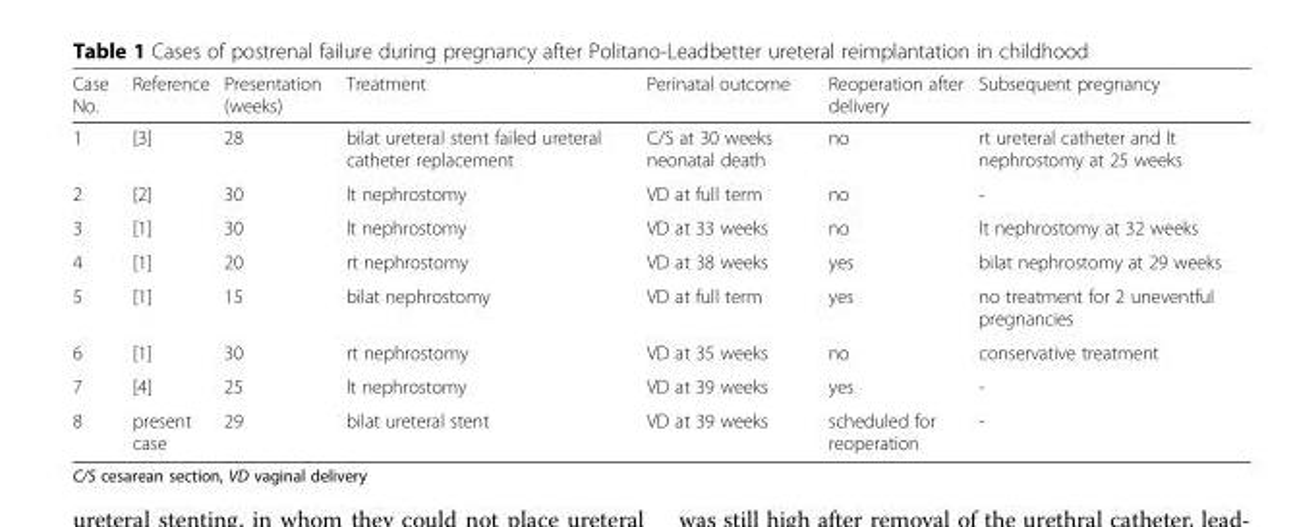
<table><thead><tr><td>Case No.</td><td>Reference</td><td>Presentation (weeks)</td><td>Treatment</td><td>Perinatal outcome</td><td>Reoperation after delivery</td><td>Subsequent pregnancy</td></tr></thead><tbody><tr><td>1</td><td>[3]</td><td>28</td><td>bilat ureteral stent failed ureteral catheter replacement</td><td>C/S at 30 weeks neonatal death</td><td>no</td><td>rt ureteral catheter and lt nephrostomy at 25 weeks</td></tr><tr><td>2</td><td>[2]</td><td>30</td><td>lt nephrostomy</td><td>VD at full term</td><td>no</td><td>-</td></tr><tr><td>3</td><td>[1]</td><td>30</td><td>lt nephrostomy</td><td>VD at 33 weeks</td><td>no</td><td>lt nephrostomy at 32 weeks</td></tr><tr><td>4</td><td>[1]</td><td>20</td><td>rt nephrostomy</td><td>VD at 38 weeks</td><td>yes</td><td>bilat nephrostomy at 29 weeks</td></tr><tr><td>5</td><td>[1]</td><td>15</td><td>bilat nephrostomy</td><td>VD at full term</td><td>yes</td><td>no treatment for 2 uneventful pregnancies</td></tr><tr><td>6</td><td>[1]</td><td>30</td><td>rt nephrostomy</td><td>VD at 35 weeks</td><td>no</td><td>conservative treatment</td></tr><tr><td>7</td><td>[4]</td><td>25</td><td>lt nephrostomy</td><td>VD at 39 weeks</td><td>yes</td><td>-</td></tr><tr><td>8</td><td>present case</td><td>29</td><td>bilat ureteral stent</td><td>VD at 39 weeks</td><td>scheduled for reoperation</td><td>-</td></tr></tbody></table>